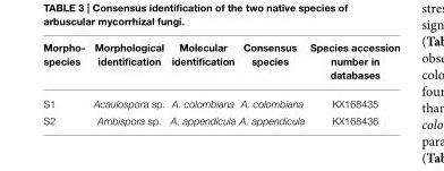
<table><thead><tr><td>Morpho- species</td><td>Morphological identification</td><td>Molecular identification</td><td>Consensus species</td><td>Species accession number in databases</td></tr></thead><tbody><tr><td>S1</td><td>Acaulospora sp.</td><td>A. colombiana</td><td>A. colombiana</td><td>KX168435</td></tr><tr><td>S2</td><td>Ambispora sp.</td><td>A. appendicula</td><td>A. appendicula</td><td>KX168436</td></tr></tbody></table>